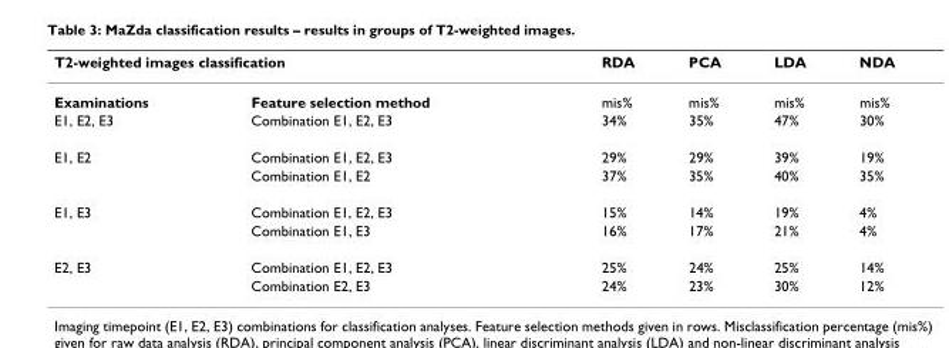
<table><thead><tr><td colspan="2">T2-weighted images classification</td><td rowspan="2">RDA mis%</td><td rowspan="2">PCA mis%</td><td rowspan="2">LDA mis%</td><td rowspan="2">NDA mis%</td></tr><tr><td>Examinations</td><td>Feature selection method</td></tr></thead><tbody><tr><td>E1, E2, E3</td><td>Combination E1, E2, E3</td><td>34%</td><td>35%</td><td>47%</td><td>30%</td></tr><tr><td rowspan="2">E1, E2</td><td>Combination E1, E2, E3</td><td>29%</td><td>29%</td><td>39%</td><td>19%</td></tr><tr><td>Combination E1, E2</td><td>37%</td><td>35%</td><td>40%</td><td>35%</td></tr><tr><td rowspan="2">E1, E3</td><td>Combination E1, E2, E3</td><td>15%</td><td>14%</td><td>19%</td><td>4%</td></tr><tr><td>Combination E1, E3</td><td>16%</td><td>17%</td><td>21%</td><td>4%</td></tr><tr><td rowspan="2">E2, E3</td><td>Combination E1, E2, E3</td><td>25%</td><td>24%</td><td>25%</td><td>14%</td></tr><tr><td>Combination E2, E3</td><td>24%</td><td>23%</td><td>30%</td><td>12%</td></tr></tbody></table>